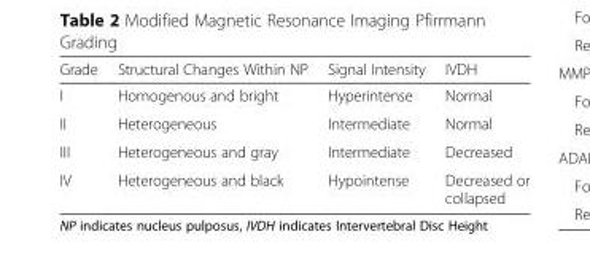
<table><thead><tr><td>Grade</td><td>Structural Changes Within NP</td><td>Signal Intensity</td><td>IVDH</td></tr></thead><tbody><tr><td>I</td><td>Homogenous and bright</td><td>Hyperintense</td><td>Normal</td></tr><tr><td>II</td><td>Heterogeneous</td><td>Intermediate</td><td>Normal</td></tr><tr><td>III</td><td>Heterogeneous and gray</td><td>Intermediate</td><td>Decreased</td></tr><tr><td>IV</td><td>Heterogeneous and black</td><td>Hypointense</td><td>Decreased or collapsed</td></tr></tbody></table>